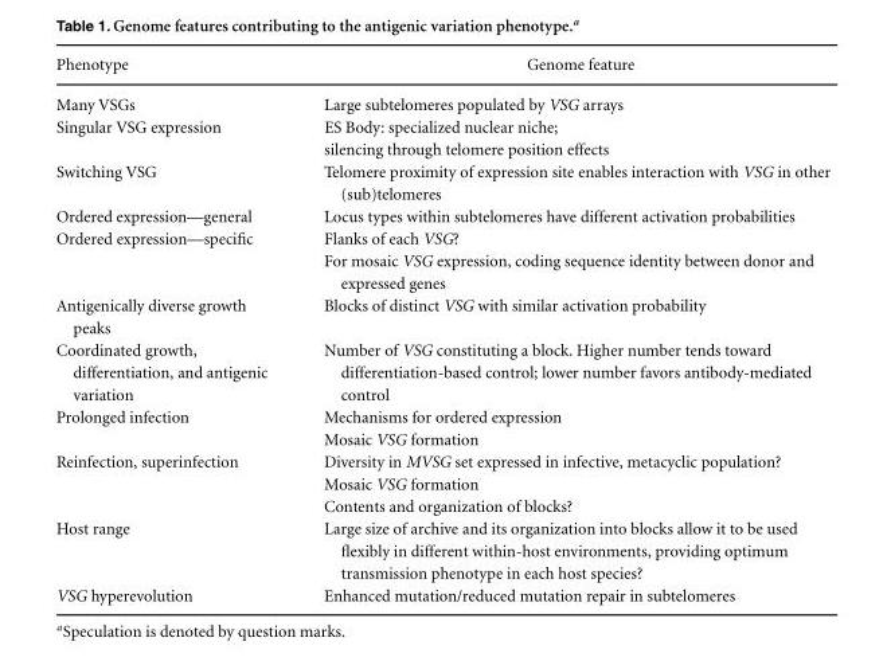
<table><thead><tr><td>Phenotype</td><td>Genome feature</td></tr></thead><tbody><tr><td>Many VSGs</td><td>Large subtelomeres populated by VSG arrays</td></tr><tr><td rowspan="2">Singular VSG expression</td><td>ES Body: specialized nuclear niche;</td></tr><tr><td>silencing through telomere position effects</td></tr><tr><td>Switching VSG</td><td>Telomere proximity of expression site enables interaction with VSG in other (sub)telomeres</td></tr><tr><td>Ordered expression—general</td><td>Locus types within subtelomeres have different activation probabilities</td></tr><tr><td rowspan="2">Ordered expression—specific</td><td>Flanks of each VSG?</td></tr><tr><td>For mosaic VSG expression, coding sequence identity between donor and expressed genes</td></tr><tr><td>Antigenically diverse growth peaks</td><td>Blocks of distinct VSG with similar activation probability</td></tr><tr><td>Coordinated growth, differentiation, and antigenic variation</td><td>Number of VSG constituting a block. Higher number tends toward differentiation-based control; lower number favors antibody-mediated control</td></tr><tr><td rowspan="2">Prolonged infection</td><td>Mechanisms for ordered expression</td></tr><tr><td>Mosaic VSG formation</td></tr><tr><td rowspan="3">Reinfection, superinfection</td><td>Diversity in MVSG set expressed in infective, metacyclic population?</td></tr><tr><td>Mosaic VSG formation</td></tr><tr><td>Contents and organization of blocks?</td></tr><tr><td>Host range</td><td>Large size of archive and its organization into blocks allow it to be used flexibly in different within-host environments, providing optimum transmission phenotype in each host species?</td></tr><tr><td>VSG hyperevolution</td><td>Enhanced mutation/reduced mutation repair in subtelomeres</td></tr></tbody></table>